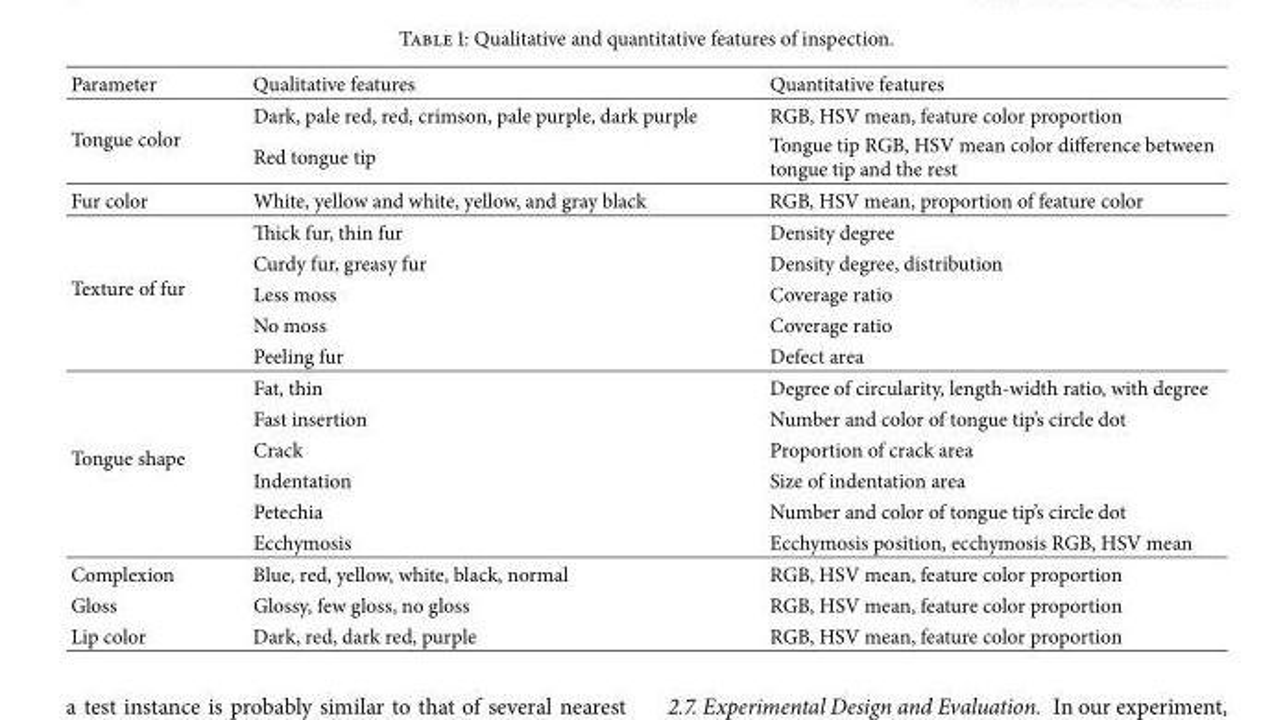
<table><thead><tr><td>Parameter</td><td>Qualitative features</td><td>Quantitative features</td></tr></thead><tbody><tr><td rowspan="2">Tongue color</td><td>Dark, pale red, red, crimson, pale purple, dark purple</td><td>RGB, HSV mean, feature color proportion</td></tr><tr><td>Red tongue tip</td><td>Tongue tip RGB, HSV mean color difference between tongue tip and the rest</td></tr><tr><td>Fur color</td><td>White, yellow and white, yellow, and gray black</td><td>RGB, HSV mean, proportion of feature color</td></tr><tr><td rowspan="5">Texture of fur</td><td>Thick fur, thin fur</td><td>Density degree</td></tr><tr><td>Curdy fur, greasy fur</td><td>Density degree, distribution</td></tr><tr><td>Less moss</td><td>Coverage ratio</td></tr><tr><td>No moss</td><td>Coverage ratio</td></tr><tr><td>Peeling fur</td><td>Defect area</td></tr><tr><td rowspan="6">Tongue shape</td><td>Fat, thin</td><td>Degree of circularity, length-width ratio, with degree</td></tr><tr><td>Fast insertion</td><td>Number and color of tongue tip’s circle dot</td></tr><tr><td>Crack</td><td>Proportion of crack area</td></tr><tr><td>Indentation</td><td>Size of indentation area</td></tr><tr><td>Petechia</td><td>Number and color of tongue tip’s circle dot</td></tr><tr><td>Ecchymosis</td><td>Ecchymosis position, ecchymosis RGB, HSV mean</td></tr><tr><td>Complexion</td><td>Blue, red, yellow, white, black, normal</td><td>RGB, HSV mean, feature color proportion</td></tr><tr><td>Gloss</td><td>Glossy, few gloss, no gloss</td><td>RGB, HSV mean, feature color proportion</td></tr><tr><td>Lip color</td><td>Dark, red, dark red, purple</td><td>RGB, HSV mean, feature color proportion</td></tr></tbody></table>